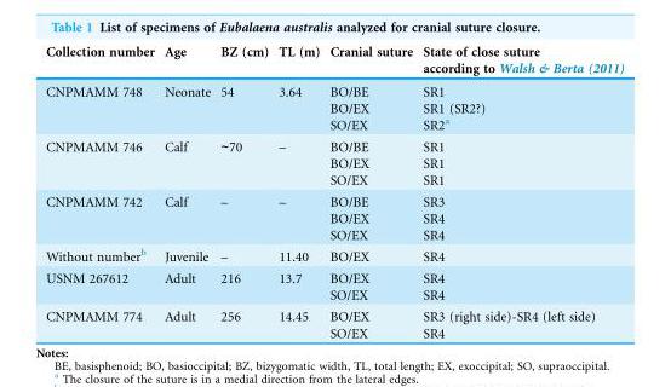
<table><thead><tr><td>Collection number</td><td>Age</td><td>BZ (cm)</td><td>TL (m)</td><td>Cranial suture</td><td>State of close suture according to Walsh &amp; Berta (2011)</td></tr></thead><tbody><tr><td>CNPMAMM 748</td><td>Neonate</td><td>54</td><td>3.64</td><td>BO/BE BO/EX SO/EX</td><td>SR1 SR1 (SR2?) SR2<sup>a</sup></td></tr><tr><td>CNPMAMM 746</td><td>Calf</td><td>∼70</td><td>–</td><td>BO/BE BO/EX SO/EX</td><td>SR1 SR1 SR1</td></tr><tr><td>CNPMAMM 742</td><td>Calf</td><td>–</td><td>–</td><td>BO/BE BO/EX SO/EX</td><td>SR3 SR4 SR4</td></tr><tr><td>Without number<sup>b</sup></td><td>Juvenile</td><td>–</td><td>11.40</td><td>BO/EX</td><td>SR4</td></tr><tr><td>USNM 267612</td><td>Adult</td><td>216</td><td>13.7</td><td>BO/EX SO/EX</td><td>SR4 SR4</td></tr><tr><td>CNPMAMM 774</td><td>Adult</td><td>256</td><td>14.45</td><td>BO/EX SO/EX</td><td>SR3 (right side)-SR4 (left side) SR4</td></tr></tbody></table>